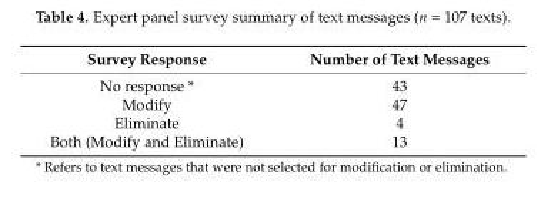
<table><thead><tr><td>Survey Response</td><td>Number of Text Messages</td></tr></thead><tbody><tr><td>No response *</td><td>43</td></tr><tr><td>Modify</td><td>47</td></tr><tr><td>Eliminate</td><td>4</td></tr><tr><td>Both (Modify and Eliminate)</td><td>13</td></tr></tbody></table>